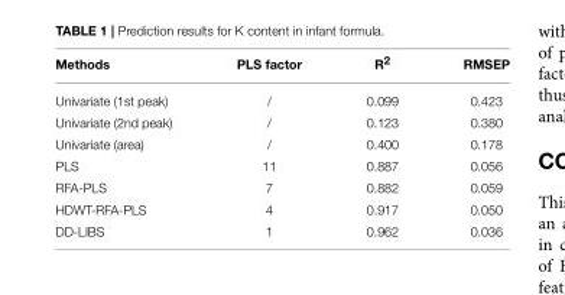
<table><thead><tr><td>Methods</td><td>PLS factor</td><td>R<sup>2</sup></td><td>RMSEP</td></tr></thead><tbody><tr><td>Univariate (1st peak)</td><td>/</td><td>0.099</td><td>0.423</td></tr><tr><td>Univariate (2nd peak)</td><td>/</td><td>0.123</td><td>0.380</td></tr><tr><td>Univariate (area)</td><td>/</td><td>0.400</td><td>0.178</td></tr><tr><td>PLS</td><td>11</td><td>0.887</td><td>0.056</td></tr><tr><td>RFA-PLS</td><td>7</td><td>0.882</td><td>0.059</td></tr><tr><td>HDWT-RFA-PLS</td><td>4</td><td>0.917</td><td>0.050</td></tr><tr><td>DD-LIBS</td><td>1</td><td>0.962</td><td>0.036</td></tr></tbody></table>